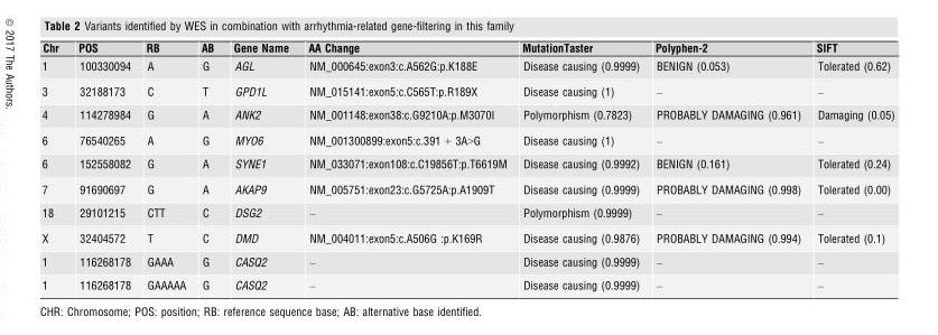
<table><thead><tr><td>Chr</td><td>POS</td><td>RB</td><td>AB</td><td>Gene Name</td><td>AA Change</td><td>MutationTaster</td><td>Polyphen-2</td><td>SIFT</td></tr></thead><tbody><tr><td>1</td><td>100330094</td><td>A</td><td>G</td><td>AGL</td><td>NM_000645:exon3:c.A562G:p.K188E</td><td>Disease causing (0.9999)</td><td>BENIGN (0.053)</td><td>Tolerated (0.62)</td></tr><tr><td>3</td><td>32188173</td><td>C</td><td>T</td><td>GPD1L</td><td>NM_015141:exon5:c.C565T:p.R189X</td><td>Disease causing (1)</td><td>–</td><td>–</td></tr><tr><td>4</td><td>114278984</td><td>G</td><td>A</td><td>ANK2</td><td>NM_001148:exon38:c.G9210A:p.M3070I</td><td>Polymorphism (0.7823)</td><td>PROBABLY DAMAGING (0.961)</td><td>Damaging (0.05)</td></tr><tr><td>6</td><td>76540265</td><td>A</td><td>G</td><td>MYO6</td><td>NM_001300899:exon5:c.391 + 3A&gt;G</td><td>Disease causing (1)</td><td>–</td><td>–</td></tr><tr><td>6</td><td>152558082</td><td>G</td><td>A</td><td>SYNE1</td><td>NM_033071:exon108:c.C19856T:p.T6619M</td><td>Disease causing (0.9992)</td><td>BENIGN (0.161)</td><td>Tolerated (0.24)</td></tr><tr><td>7</td><td>91690697</td><td>G</td><td>A</td><td>AKAP9</td><td>NM_005751:exon23:c.G5725A:p.A1909T</td><td>Disease causing (0.9999)</td><td>PROBABLY DAMAGING (0.998)</td><td>Tolerated (0.00)</td></tr><tr><td>18</td><td>29101215</td><td>CTT</td><td>C</td><td>DSG2</td><td>–</td><td>Polymorphism (0.9999)</td><td>–</td><td>–</td></tr><tr><td>X</td><td>32404572</td><td>T</td><td>C</td><td>DMD</td><td>NM_004011:exon5:c.A506G :p.K169R</td><td>Disease causing (0.9876)</td><td>PROBABLY DAMAGING (0.994)</td><td>Tolerated (0.1)</td></tr><tr><td>1</td><td>116268178</td><td>GAAA</td><td>G</td><td>CASQ2</td><td>–</td><td>Disease causing (0.9999)</td><td>–</td><td>–</td></tr><tr><td>1</td><td>116268178</td><td>GAAAAA</td><td>G</td><td>CASQ2</td><td>–</td><td>Disease causing (0.9999)</td><td>–</td><td>–</td></tr></tbody></table>